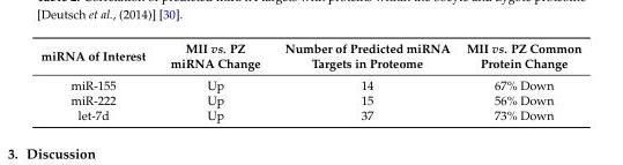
<table><thead><tr><td>miRNA of Interest</td><td>MII vs. PZ miRNA Change</td><td>Number of Predicted miRNA Targets in Proteome</td><td>MII vs. PZ Common Protein Change</td></tr></thead><tbody><tr><td>miR-155</td><td>Up</td><td>14</td><td>67% Down</td></tr><tr><td>miR-222</td><td>Up</td><td>15</td><td>56% Down</td></tr><tr><td>let-7d</td><td>Up</td><td>37</td><td>73% Down</td></tr></tbody></table>